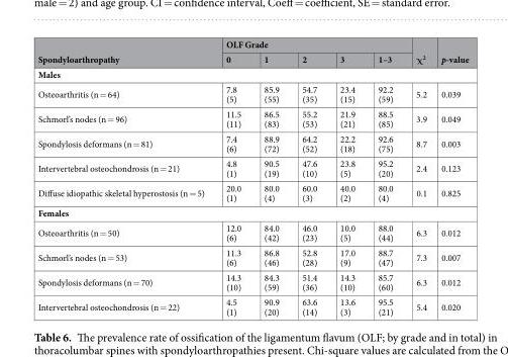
<table><thead><tr><td rowspan="2">Spondyloarthropathy</td><td colspan="5">OLF Grade</td><td rowspan="2">χ<sup>2</sup></td><td rowspan="2">p-value</td></tr><tr><td>0</td><td>1</td><td>2</td><td>3</td><td>1–3</td></tr></thead><tbody><tr><td colspan="8">Males</td></tr><tr><td>Osteoarthritis (n = 64)</td><td>7.8 (5)</td><td>85.9 (55)</td><td>54.7 (35)</td><td>23.4 (15)</td><td>92.2 (59)</td><td>5.2</td><td>0.039</td></tr><tr><td>Schmorl’s nodes (n = 96)</td><td>11.5 (11)</td><td>86.5 (83)</td><td>55.2 (53)</td><td>21.9 (21)</td><td>88.5 (85)</td><td>3.9</td><td>0.049</td></tr><tr><td>Spondylosis deformans (n = 81)</td><td>7.4 (6)</td><td>88.9 (72)</td><td>64.2 (52)</td><td>22.2 (18)</td><td>92.6 (75)</td><td>8.7</td><td>0.003</td></tr><tr><td>Intervertebral osteochondrosis (n = 21)</td><td>4.8 (1)</td><td>90.5 (19)</td><td>47.6 (10)</td><td>23.8 (5)</td><td>95.2 (20)</td><td>2.4</td><td>0.123</td></tr><tr><td>Diffuse idiopathic skeletal hyperostosis (n = 5)</td><td>20.0 (1)</td><td>80.0 (4)</td><td>60.0 (3)</td><td>40.0 (2)</td><td>80.0 (4)</td><td>0.1</td><td>0.825</td></tr><tr><td colspan="8">Females</td></tr><tr><td>Osteoarthritis (n = 50)</td><td>12.0 (6)</td><td>84.0 (42)</td><td>46.0 (23)</td><td>10.0 (5)</td><td>88.0 (44)</td><td>6.3</td><td>0.012</td></tr><tr><td>Schmorl’s nodes (n = 53)</td><td>11.3 (6)</td><td>86.8 (46)</td><td>52.8 (28)</td><td>17.0 (9)</td><td>88.7 (47)</td><td>7.3</td><td>0.007</td></tr><tr><td>Spondylosis deformans (n = 70)</td><td>14.3 (10)</td><td>84.3 (59)</td><td>51.4 (36)</td><td>14.3 (10)</td><td>85.7 (60)</td><td>6.3</td><td>0.012</td></tr><tr><td>Intervertebral osteochondrosis (n = 22)</td><td>4.5 (1)</td><td>90.9 (20)</td><td>63.6 (14)</td><td>13.6 (3)</td><td>95.5 (21)</td><td>5.4</td><td>0.020</td></tr></tbody></table>